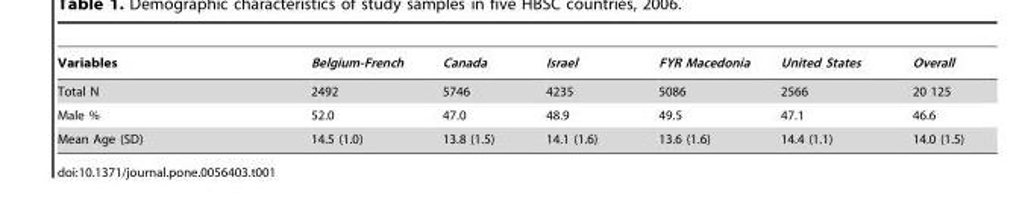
<table><thead><tr><td>Variables</td><td>Belgium-French</td><td>Canada</td><td>Israel</td><td>FYR Macedonia</td><td>United States</td><td>Overall</td></tr></thead><tbody><tr><td>Total N</td><td>2492</td><td>5746</td><td>4235</td><td>5086</td><td>2566</td><td>20 125</td></tr><tr><td>Male %</td><td>52.0</td><td>47.0</td><td>48.9</td><td>49.5</td><td>47.1</td><td>46.6</td></tr><tr><td>Mean Age (SD)</td><td>14.5 (1.0)</td><td>13.8 (1.5)</td><td>14.1 (1.6)</td><td>13.6 (1.6)</td><td>14.4 (1.1)</td><td>14.0 (1.5)</td></tr></tbody></table>